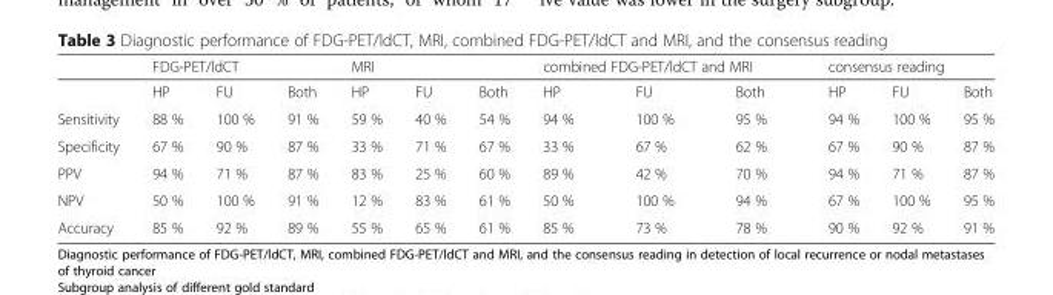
<table><thead><tr><td rowspan="2"></td><td colspan="3">FDG-PET/ldCT</td><td colspan="3">MRI</td><td colspan="3">combined FDG-PET/ldCT and MRI</td><td colspan="3">consensus reading</td></tr><tr><td>HP</td><td>FU</td><td>Both</td><td>HP</td><td>FU</td><td>Both</td><td>HP</td><td>FU</td><td>Both</td><td>HP</td><td>FU</td><td>Both</td></tr></thead><tbody><tr><td>Sensitivity</td><td>88 %</td><td>100 %</td><td>91 %</td><td>59 %</td><td>40 %</td><td>54 %</td><td>94 %</td><td>100 %</td><td>95 %</td><td>94 %</td><td>100 %</td><td>95 %</td></tr><tr><td>Specificity</td><td>67 %</td><td>90 %</td><td>87 %</td><td>33 %</td><td>71 %</td><td>67 %</td><td>33 %</td><td>67 %</td><td>62 %</td><td>67 %</td><td>90 %</td><td>87 %</td></tr><tr><td>PPV</td><td>94 %</td><td>71 %</td><td>87 %</td><td>83 %</td><td>25 %</td><td>60 %</td><td>89 %</td><td>42 %</td><td>70 %</td><td>94 %</td><td>71 %</td><td>87 %</td></tr><tr><td>NPV</td><td>50 %</td><td>100 %</td><td>91 %</td><td>12 %</td><td>83 %</td><td>61 %</td><td>50 %</td><td>100 %</td><td>94 %</td><td>67 %</td><td>100 %</td><td>95 %</td></tr><tr><td>Accuracy</td><td>85 %</td><td>92 %</td><td>89 %</td><td>55 %</td><td>65 %</td><td>61 %</td><td>85 %</td><td>73 %</td><td>78 %</td><td>90 %</td><td>92 %</td><td>91 %</td></tr></tbody></table>